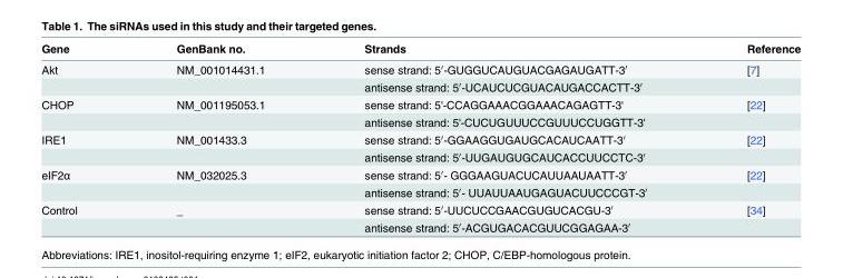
<table><thead><tr><td>Gene</td><td>GenBank no.</td><td>Strands</td><td>Reference</td></tr></thead><tbody><tr><td rowspan="2">Akt</td><td>NM_001014431.1</td><td>sense strand: 5′-GUGGUCAUGUACGAGAUGATT-3′</td><td>[7]</td></tr><tr><td></td><td>antisense strand: 5′-UCAUCUCGUACAUGACCACTT-3′</td><td></td></tr><tr><td rowspan="2">CHOP</td><td>NM_001195053.1</td><td>sense strand: 5&#x27;-CCAGGAAACGGAAACAGAGTT-3&#x27;</td><td>[22]</td></tr><tr><td></td><td>antisense strand: 5&#x27;-CUCUGUUUCCGUUUCCUGGTT-3&#x27;</td><td></td></tr><tr><td rowspan="2">IRE1</td><td>NM_001433.3</td><td>sense strand: 5′-GGAAGGUGAUGCACAUCAATT-3′</td><td>[22]</td></tr><tr><td></td><td>antisense strand: 5′-UUGAUGUGCAUCACCUUCCTC-3′</td><td></td></tr><tr><td rowspan="2">eIF2α</td><td>NM_032025.3</td><td>sense strand: 5′- GGGAAGUACUCAUUAAUAATT-3′</td><td>[22]</td></tr><tr><td></td><td>antisense strand: 5′- UUAUUAAUGAGUACUUCCCGT-3′</td><td></td></tr><tr><td rowspan="2">Control</td><td>_</td><td>sense strand: 5′-UUCUCCGAACGUGUCACGU-3′</td><td>[34]</td></tr><tr><td></td><td>antisense strand: 5′-ACGUGACACGUUCGGAGAA-3′</td><td></td></tr></tbody></table>